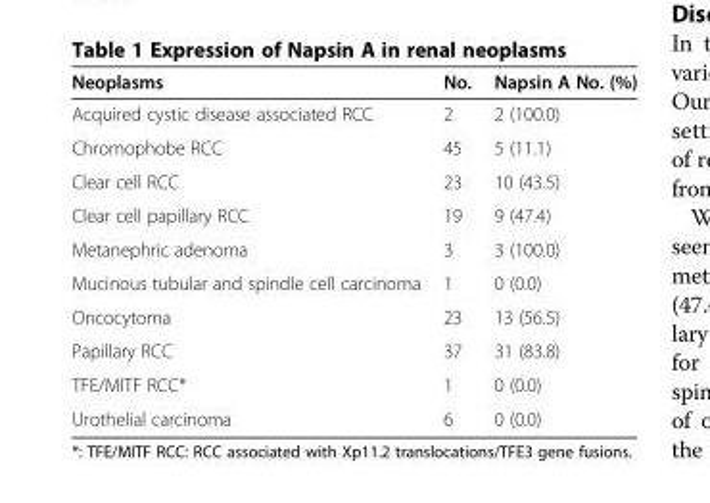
<table><thead><tr><td>Neoplasms</td><td>No.</td><td>Napsin A No. (%)</td></tr></thead><tbody><tr><td>Acquired cystic disease associated RCC</td><td>2</td><td>2 (100.0)</td></tr><tr><td>Chromophobe RCC</td><td>45</td><td>5 (11.1)</td></tr><tr><td>Clear cell RCC</td><td>23</td><td>10 (43.5)</td></tr><tr><td>Clear cell papillary RCC</td><td>19</td><td>9 (47.4)</td></tr><tr><td>Metanephric adenoma</td><td>3</td><td>3 (100.0)</td></tr><tr><td>Mucinous tubular and spindle cell carcinoma</td><td>1</td><td>0 (0.0)</td></tr><tr><td>Oncocytoma</td><td>23</td><td>13 (56.5)</td></tr><tr><td>Papillary RCC</td><td>37</td><td>31 (83.8)</td></tr><tr><td>TFE/MITF RCC*</td><td>1</td><td>0 (0.0)</td></tr><tr><td>Urothelial carcinoma</td><td>6</td><td>0 (0.0)</td></tr></tbody></table>